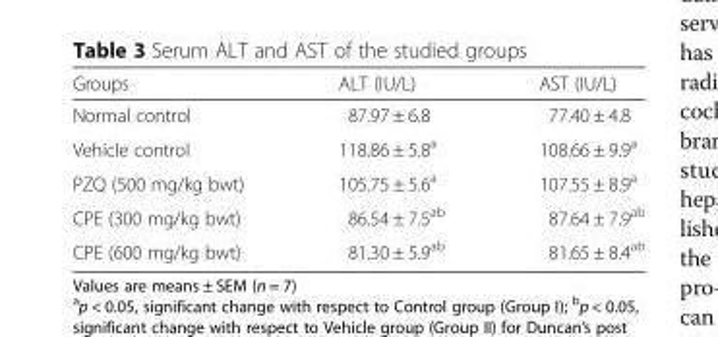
<table><thead><tr><td>Groups</td><td>ALT (IU/L)</td><td>AST (IU/L)</td></tr></thead><tbody><tr><td>Normal control</td><td>87.97 ± 6.8</td><td>77.40 ± 4.8</td></tr><tr><td>Vehicle control</td><td>118.86 ± 5.8<sup>a</sup></td><td>108.66 ± 9.9<sup>a</sup></td></tr><tr><td>PZQ (500 mg/kg bwt)</td><td>105.75 ± 5.6<sup>a</sup></td><td>107.55 ± 8.9<sup>a</sup></td></tr><tr><td>CPE (300 mg/kg bwt)</td><td>86.54 ± 7.5<sup>ab</sup></td><td>87.64 ± 7.9<sup>ab</sup></td></tr><tr><td>CPE (600 mg/kg bwt)</td><td>81.30 ± 5.9<sup>ab</sup></td><td>81.65 ± 8.4<sup>ab</sup></td></tr></tbody></table>